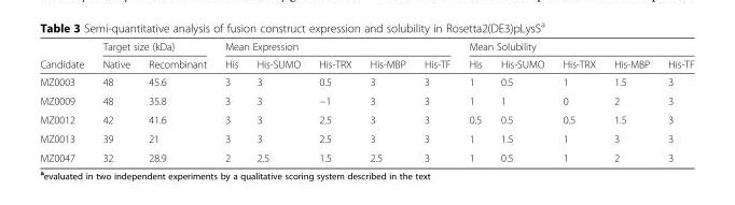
<table><thead><tr><td rowspan="2">Candidate</td><td colspan="2">Target size (kDa)</td><td colspan="5">Mean Expression</td><td colspan="5">Mean Solubility</td></tr><tr><td>Native</td><td>Recombinant</td><td>His</td><td>His-SUMO</td><td>His-TRX</td><td>His-MBP</td><td>His-TF</td><td>His</td><td>His-SUMO</td><td>His-TRX</td><td>His-MBP</td><td>His-TF</td></tr></thead><tbody><tr><td>MZ0003</td><td>48</td><td>45.6</td><td>3</td><td>3</td><td>0.5</td><td>3</td><td>3</td><td>1</td><td>0.5</td><td>1</td><td>1.5</td><td>3</td></tr><tr><td>MZ0009</td><td>48</td><td>35.8</td><td>3</td><td>3</td><td>−1</td><td>3</td><td>3</td><td>1</td><td>1</td><td>0</td><td>2</td><td>3</td></tr><tr><td>MZ0012</td><td>42</td><td>41.6</td><td>3</td><td>3</td><td>2.5</td><td>3</td><td>3</td><td>0.5</td><td>0.5</td><td>0.5</td><td>1.5</td><td>3</td></tr><tr><td>MZ0013</td><td>39</td><td>21</td><td>3</td><td>3</td><td>2.5</td><td>3</td><td>3</td><td>1</td><td>1.5</td><td>1</td><td>3</td><td>3</td></tr><tr><td>MZ0047</td><td>32</td><td>28.9</td><td>2</td><td>2.5</td><td>1.5</td><td>2.5</td><td>3</td><td>1</td><td>0.5</td><td>1</td><td>2</td><td>3</td></tr></tbody></table>